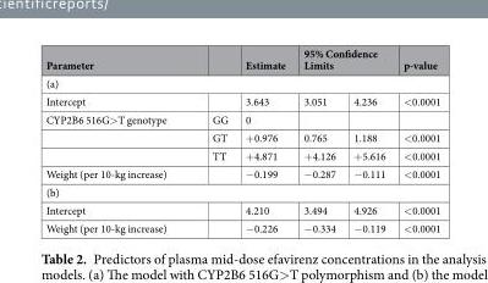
<table><thead><tr><td>Parameter</td><td></td><td>Estimate</td><td colspan="2">95% Confidence Limits</td><td>p-value</td></tr><tr><td colspan="6">(a)</td></tr><tr><td>Intercept</td><td></td><td>3.643</td><td>3.051</td><td>4.236</td><td>&lt;0.0001</td></tr></thead><tbody><tr><td rowspan="3">CYP2B6 516G&gt;T genotype</td><td>GG</td><td>0</td><td></td><td></td><td></td></tr><tr><td>GT</td><td>+0.976</td><td>0.765</td><td>1.188</td><td>&lt;0.0001</td></tr><tr><td>TT</td><td>+4.871</td><td>+4.126</td><td>+5.616</td><td>&lt;0.0001</td></tr><tr><td>Weight (per 10-kg increase)</td><td></td><td>−0.199</td><td>−0.287</td><td>−0.111</td><td>&lt;0.0001</td></tr><tr><td colspan="6">(b)</td></tr><tr><td>Intercept</td><td></td><td>4.210</td><td>3.494</td><td>4.926</td><td>&lt;0.0001</td></tr><tr><td>Weight (per 10-kg increase)</td><td></td><td>−0.226</td><td>−0.334</td><td>−0.119</td><td>&lt;0.0001</td></tr></tbody></table>